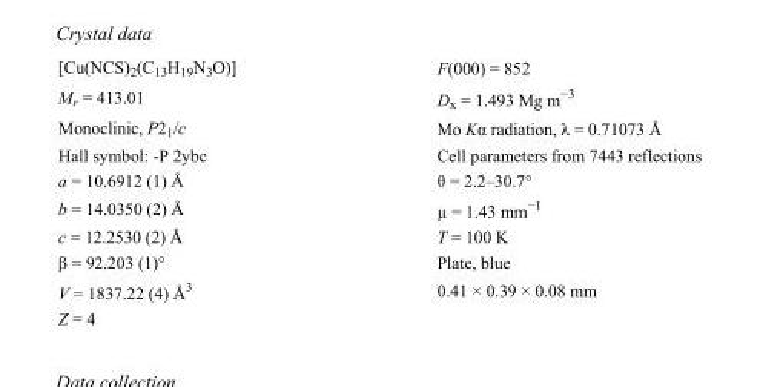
<table><tbody><tr><td>[Cu(NCS)<sub>2</sub>(C<sub>13</sub>H<sub>19</sub>N<sub>3</sub>O)]</td><td>F(000) = 852</td></tr><tr><td>M<sub>r</sub> = 413.01</td><td>D<sub>x</sub> = 1.493 Mg m<sup>−3</sup></td></tr><tr><td>Monoclinic, P2<sub>1</sub>/c</td><td>Mo Kα radiation, λ = 0.71073 Å</td></tr><tr><td>Hall symbol: -P 2ybc</td><td>Cell parameters from 7443 reflections</td></tr><tr><td>a = 10.6912 (1) Å</td><td>θ = 2.2–30.7°</td></tr><tr><td>b = 14.0350 (2) Å</td><td>µ = 1.43 mm<sup>−1</sup></td></tr><tr><td>c = 12.2530 (2) Å</td><td>T = 100 K</td></tr><tr><td>β = 92.203 (1)°</td><td>Plate, blue</td></tr><tr><td>V = 1837.22 (4) Å<sup>3</sup></td><td>0.41 × 0.39 × 0.08 mm</td></tr><tr><td>Z = 4</td><td></td></tr></tbody></table>